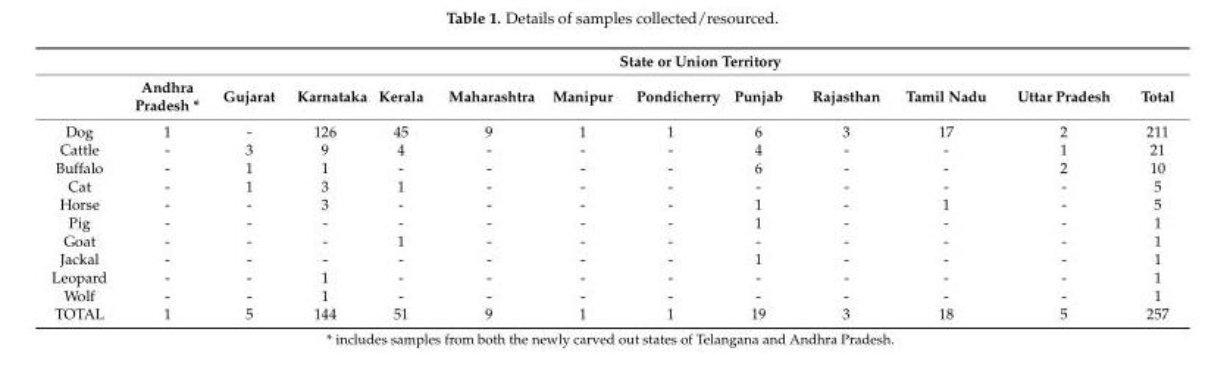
<table><thead><tr><td rowspan="2"></td><td rowspan="2">Andhra Pradesh *</td><td colspan="11">State or Union Territory</td></tr><tr><td>Gujarat</td><td>Karnataka</td><td>Kerala</td><td>Maharashtra</td><td>Manipur</td><td>Pondicherry</td><td>Punjab</td><td>Rajasthan</td><td>Tamil Nadu</td><td>Uttar Pradesh</td><td>Total</td></tr></thead><tbody><tr><td>Dog</td><td>1</td><td>-</td><td>126</td><td>45</td><td>9</td><td>1</td><td>1</td><td>6</td><td>3</td><td>17</td><td>2</td><td>211</td></tr><tr><td>Cattle</td><td>-</td><td>3</td><td>9</td><td>4</td><td>-</td><td>-</td><td>-</td><td>4</td><td>-</td><td>-</td><td>1</td><td>21</td></tr><tr><td>Buffalo</td><td>-</td><td>1</td><td>1</td><td>-</td><td>-</td><td>-</td><td>-</td><td>6</td><td>-</td><td>-</td><td>2</td><td>10</td></tr><tr><td>Cat</td><td>-</td><td>1</td><td>3</td><td>1</td><td>-</td><td>-</td><td>-</td><td>-</td><td>-</td><td>-</td><td>-</td><td>5</td></tr><tr><td>Horse</td><td>-</td><td>-</td><td>3</td><td>-</td><td>-</td><td>-</td><td>-</td><td>1</td><td>-</td><td>1</td><td>-</td><td>5</td></tr><tr><td>Pig</td><td>-</td><td>-</td><td>-</td><td>-</td><td>-</td><td>-</td><td>-</td><td>1</td><td>-</td><td>-</td><td>-</td><td>1</td></tr><tr><td>Goat</td><td>-</td><td>-</td><td>-</td><td>1</td><td>-</td><td>-</td><td>-</td><td>-</td><td>-</td><td>-</td><td>-</td><td>1</td></tr><tr><td>Jackal</td><td>-</td><td>-</td><td>-</td><td>-</td><td>-</td><td>-</td><td>-</td><td>1</td><td>-</td><td>-</td><td>-</td><td>1</td></tr><tr><td>Leopard</td><td>-</td><td>-</td><td>1</td><td>-</td><td>-</td><td>-</td><td>-</td><td>-</td><td>-</td><td>-</td><td>-</td><td>1</td></tr><tr><td>Wolf</td><td>-</td><td>-</td><td>1</td><td>-</td><td>-</td><td>-</td><td>-</td><td>-</td><td>-</td><td>-</td><td>-</td><td>1</td></tr><tr><td>TOTAL</td><td>1</td><td>5</td><td>144</td><td>51</td><td>9</td><td>1</td><td>1</td><td>19</td><td>3</td><td>18</td><td>5</td><td>257</td></tr></tbody></table>